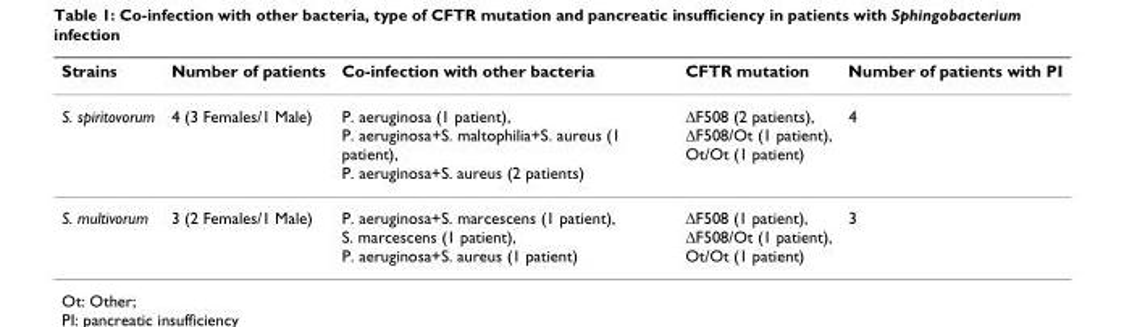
<table><thead><tr><td>Strains</td><td>Number of patients</td><td>Co-infection with other bacteria</td><td>CFTR mutation</td><td>Number of patients with PI</td></tr></thead><tbody><tr><td>S. spiritovorum</td><td>4 (3 Females/1 Male)</td><td>P. aeruginosa (1 patient), P. aeruginosa+S. maltophilia+S. aureus (1 patient), P. aeruginosa+S. aureus (2 patients)</td><td>ΔF508 (2 patients), ΔF508/Ot (1 patient), Ot/Ot (1 patient)</td><td>4</td></tr><tr><td>S. multivorum</td><td>3 (2 Females/1 Male)</td><td>P. aeruginosa+S. marcescens (1 patient), S. marcescens (1 patient), P. aeruginosa+S. aureus (1 patient)</td><td>ΔF508 (1 patient), ΔF508/Ot (1 patient), Ot/Ot (1 patient)</td><td>3</td></tr></tbody></table>